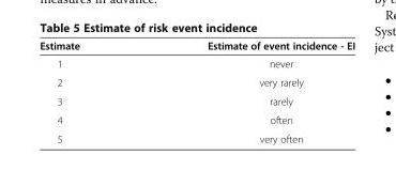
<table><thead><tr><td>Estimate</td><td>Estimate of event incidence - EI</td></tr></thead><tbody><tr><td>1</td><td>never</td></tr><tr><td>2</td><td>very rarely</td></tr><tr><td>3</td><td>rarely</td></tr><tr><td>4</td><td>often</td></tr><tr><td>5</td><td>very often</td></tr></tbody></table>